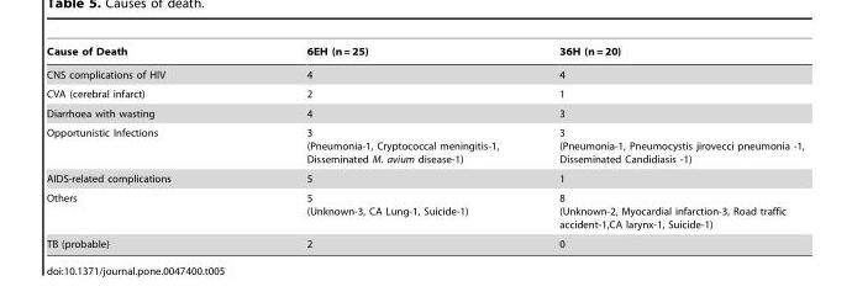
<table><thead><tr><td>Cause of Death</td><td>6EH (n = 25)</td><td>36H (n = 20)</td></tr></thead><tbody><tr><td>CNS complications of HIV</td><td>4</td><td>4</td></tr><tr><td>CVA (cerebral infarct)</td><td>2</td><td>1</td></tr><tr><td>Diarrhoea with wasting</td><td>4</td><td>3</td></tr><tr><td>Opportunistic Infections</td><td>3 (Pneumonia-1, Cryptococcal meningitis-1, Disseminated M. avium disease-1)</td><td>3 (Pneumonia-1, Pneumocystis jirovecci pneumonia -1, Disseminated Candidiasis -1)</td></tr><tr><td>AIDS-related complications</td><td>5</td><td>1</td></tr><tr><td>Others</td><td>5 (Unknown-3, CA Lung-1, Suicide-1)</td><td>8 (Unknown-2, Myocardial infarction-3, Road traffic accident-1,CA larynx-1, Suicide-1)</td></tr><tr><td>TB (probable)</td><td>2</td><td>0</td></tr></tbody></table>